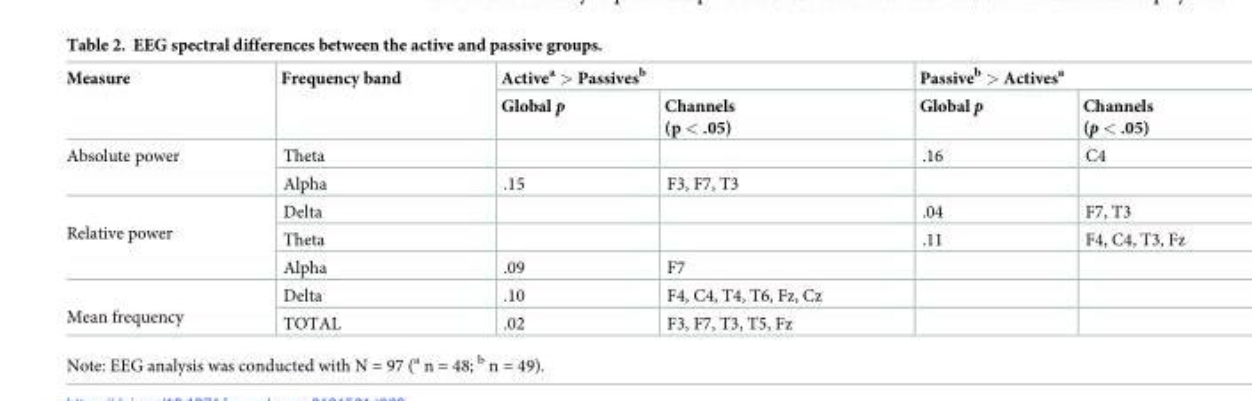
<table><thead><tr><td rowspan="2">Measure</td><td rowspan="2">Frequency band</td><td colspan="2">Active<sup>a</sup> &gt; Passives<sup>b</sup></td><td colspan="2">Passive<sup>b</sup> &gt; Actives<sup>a</sup></td></tr><tr><td>Global p</td><td>Channels (p &lt; .05)</td><td>Global p</td><td>Channels (p &lt; .05)</td></tr></thead><tbody><tr><td rowspan="2">Absolute power</td><td>Theta</td><td></td><td></td><td>.16</td><td>C4</td></tr><tr><td>Alpha</td><td>.15</td><td>F3, F7, T3</td><td></td><td></td></tr><tr><td rowspan="3">Relative power</td><td>Delta</td><td></td><td></td><td>.04</td><td>F7, T3</td></tr><tr><td>Theta</td><td></td><td></td><td>.11</td><td>F4, C4, T3, Fz</td></tr><tr><td>Alpha</td><td>.09</td><td>F7</td><td></td><td></td></tr><tr><td rowspan="2">Mean frequency</td><td>Delta</td><td>.10</td><td>F4, C4, T4, T6, Fz, Cz</td><td></td><td></td></tr><tr><td>TOTAL</td><td>.02</td><td>F3, F7, T3, T5, Fz</td><td></td><td></td></tr></tbody></table>